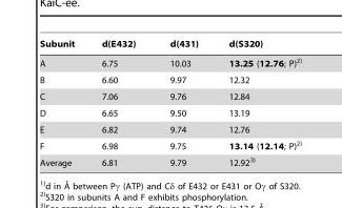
<table><thead><tr><td>Subunit</td><td>d(E432)</td><td>d(431)</td><td>d(S320)</td></tr></thead><tbody><tr><td>A</td><td>6.75</td><td>10.03</td><td>13.25 (12.76; P)2)</td></tr><tr><td>B</td><td>6.60</td><td>9.97</td><td>12.32</td></tr><tr><td>C</td><td>7.06</td><td>9.76</td><td>12.84</td></tr><tr><td>D</td><td>6.65</td><td>9.50</td><td>13.19</td></tr><tr><td>E</td><td>6.82</td><td>9.74</td><td>12.76</td></tr><tr><td>F</td><td>6.98</td><td>9.75</td><td>13.14 (12.14; P)2)</td></tr><tr><td>Average</td><td>6.81</td><td>9.79</td><td>12.923)</td></tr></tbody></table>